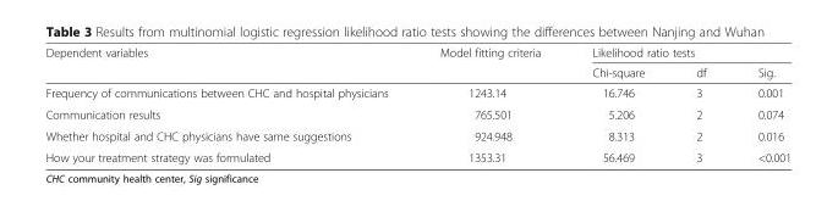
<table><thead><tr><td rowspan="2">Dependent variables</td><td rowspan="2">Model fitting criteria</td><td colspan="3">Likelihood ratio tests</td></tr><tr><td>Chi-square</td><td>df</td><td>Sig.</td></tr></thead><tbody><tr><td>Frequency of communications between CHC and hospital physicians</td><td>1243.14</td><td>16.746</td><td>3</td><td>0.001</td></tr><tr><td>Communication results</td><td>765.501</td><td>5.206</td><td>2</td><td>0.074</td></tr><tr><td>Whether hospital and CHC physicians have same suggestions</td><td>924.948</td><td>8.313</td><td>2</td><td>0.016</td></tr><tr><td>How your treatment strategy was formulated</td><td>1353.31</td><td>56.469</td><td>3</td><td>&lt;0.001</td></tr></tbody></table>